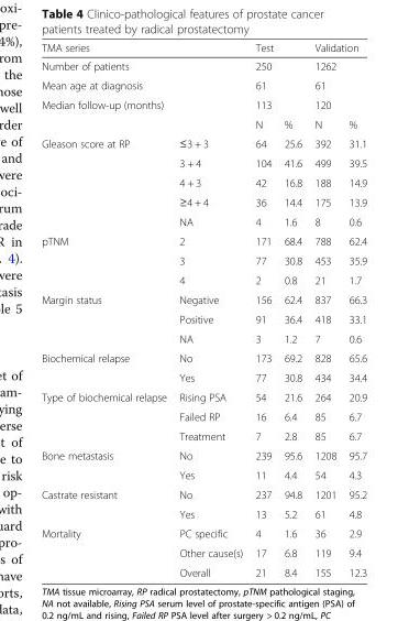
<table><thead><tr><td colspan="2">TMA series</td><td colspan="2">Test</td><td colspan="2">Validation</td></tr></thead><tbody><tr><td colspan="2">Number of patients</td><td colspan="2">250</td><td colspan="2">1262</td></tr><tr><td colspan="2">Mean age at diagnosis</td><td colspan="2">61</td><td colspan="2">61</td></tr><tr><td rowspan="2" colspan="2">Median follow-up (months)</td><td colspan="2">113</td><td colspan="2">120</td></tr><tr><td>N</td><td>%</td><td>N</td><td>%</td></tr><tr><td rowspan="5">Gleason score at RP</td><td>≤3 + 3</td><td>64</td><td>25.6</td><td>392</td><td>31.1</td></tr><tr><td>3 + 4</td><td>104</td><td>41.6</td><td>499</td><td>39.5</td></tr><tr><td>4 + 3</td><td>42</td><td>16.8</td><td>188</td><td>14.9</td></tr><tr><td>≥4 + 4</td><td>36</td><td>14.4</td><td>175</td><td>13.9</td></tr><tr><td>NA</td><td>4</td><td>1.6</td><td>8</td><td>0.6</td></tr><tr><td rowspan="3">pTNM</td><td>2</td><td>171</td><td>68.4</td><td>788</td><td>62.4</td></tr><tr><td>3</td><td>77</td><td>30.8</td><td>453</td><td>35.9</td></tr><tr><td>4</td><td>2</td><td>0.8</td><td>21</td><td>1.7</td></tr><tr><td rowspan="3">Margin status</td><td>Negative</td><td>156</td><td>62.4</td><td>837</td><td>66.3</td></tr><tr><td>Positive</td><td>91</td><td>36.4</td><td>418</td><td>33.1</td></tr><tr><td>NA</td><td>3</td><td>1.2</td><td>7</td><td>0.6</td></tr><tr><td rowspan="2">Biochemical relapse</td><td>No</td><td>173</td><td>69.2</td><td>828</td><td>65.6</td></tr><tr><td>Yes</td><td>77</td><td>30.8</td><td>434</td><td>34.4</td></tr><tr><td rowspan="3">Type of biochemical relapse</td><td>Rising PSA</td><td>54</td><td>21.6</td><td>264</td><td>20.9</td></tr><tr><td>Failed RP</td><td>16</td><td>6.4</td><td>85</td><td>6.7</td></tr><tr><td>Treatment</td><td>7</td><td>2.8</td><td>85</td><td>6.7</td></tr><tr><td rowspan="2">Bone metastasis</td><td>No</td><td>239</td><td>95.6</td><td>1208</td><td>95.7</td></tr><tr><td>Yes</td><td>11</td><td>4.4</td><td>54</td><td>4.3</td></tr><tr><td rowspan="2">Castrate resistant</td><td>No</td><td>237</td><td>94.8</td><td>1201</td><td>95.2</td></tr><tr><td>Yes</td><td>13</td><td>5.2</td><td>61</td><td>4.8</td></tr><tr><td rowspan="3">Mortality</td><td>PC specific</td><td>4</td><td>1.6</td><td>36</td><td>2.9</td></tr><tr><td>Other cause(s)</td><td>17</td><td>6.8</td><td>119</td><td>9.4</td></tr><tr><td>Overall</td><td>21</td><td>8.4</td><td>155</td><td>12.3</td></tr></tbody></table>